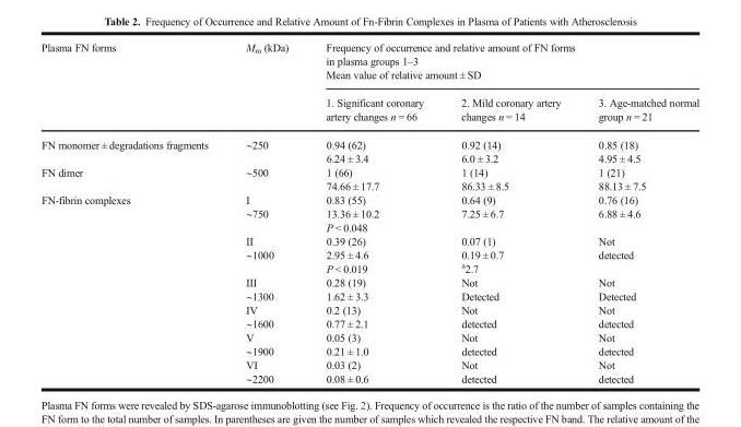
<table><thead><tr><td rowspan="2">Plasma FN forms</td><td rowspan="2">M<sub>m</sub> (kDa)</td><td colspan="3">Frequency of occurrence and relative amount of FN forms in plasma groups 1–3 Mean value of relative amount ± SD</td></tr><tr><td>1. Significant coronary artery changes n = 66</td><td>2. Mild coronary artery changes n = 14</td><td>3. Age-matched normal group n = 21</td></tr></thead><tbody><tr><td>FN monomer ± degradations fragments</td><td>∼250</td><td>0.94 (62) 6.24 ± 3.4</td><td>0.92 (14) 6.0 ± 3.2</td><td>0.85 (18) 4.95 ± 4.5</td></tr><tr><td>FN dimer</td><td>∼500</td><td>1 (66) 74.66 ± 17.7</td><td>1 (14) 86.33 ± 8.5</td><td>1 (21) 88.13 ± 7.5</td></tr><tr><td rowspan="6">FN-fibrin complexes</td><td>I ∼750</td><td>0.83 (55) 13.36 ± 10.2 P &lt; 0.048</td><td>0.64 (9) 7.25 ± 6.7</td><td>0.76 (16) 6.88 ± 4.6</td></tr><tr><td>II ∼1000</td><td>0.39 (26) 2.95 ± 4.6 P &lt; 0.019</td><td>0.07 (1) 0.19 ± 0.7 <sup>a</sup>2.7</td><td>Not detected</td></tr><tr><td>III ∼1300</td><td>0.28 (19) 1.62 ± 3.3</td><td>Not Detected</td><td>Not Detected</td></tr><tr><td>IV ∼1600</td><td>0.2 (13) 0.77 ± 2.1</td><td>Not detected</td><td>Not detected</td></tr><tr><td>V ∼1900</td><td>0.05 (3) 0.21 ± 1.0</td><td>Not detected</td><td>Not detected</td></tr><tr><td>VI ∼2200</td><td>0.03 (2) 0.08 ± 0.6</td><td>Not detected</td><td>Not detected</td></tr></tbody></table>